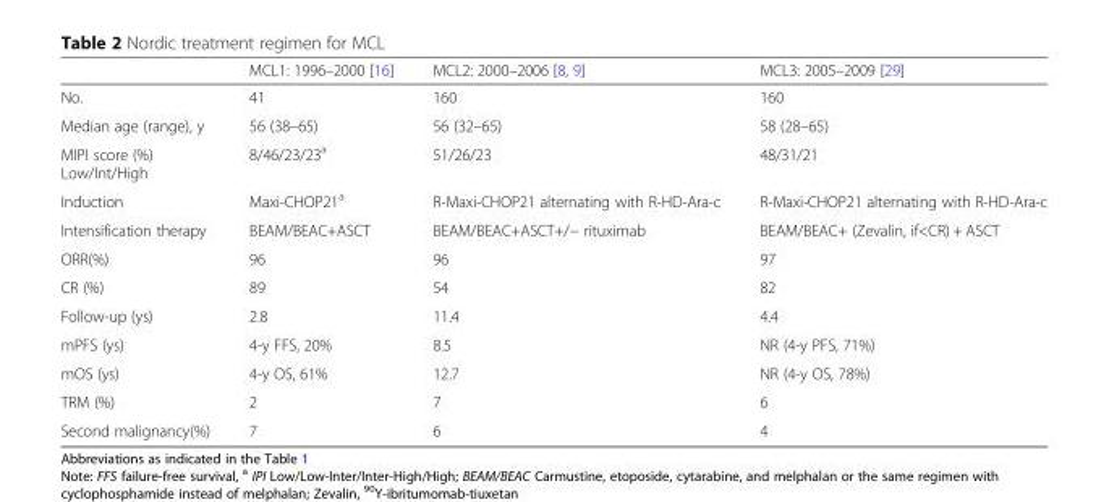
<table><thead><tr><td></td><td>MCL1: 1996–2000 [16]</td><td>MCL2: 2000–2006 [8, 9]</td><td>MCL3: 2005–2009 [29]</td></tr></thead><tbody><tr><td>No.</td><td>41</td><td>160</td><td>160</td></tr><tr><td>Median age (range), y</td><td>56 (38–65)</td><td>56 (32–65)</td><td>58 (28–65)</td></tr><tr><td>MIPI score (%) Low/Int/High</td><td>8/46/23/23<sup>a</sup></td><td>51/26/23</td><td>48/31/21</td></tr><tr><td>Induction</td><td>Maxi-CHOP21<sup>a</sup></td><td>R-Maxi-CHOP21 alternating with R-HD-Ara-c</td><td>R-Maxi-CHOP21 alternating with R-HD-Ara-c</td></tr><tr><td>Intensification therapy</td><td>BEAM/BEAC+ASCT</td><td>BEAM/BEAC+ASCT+/− rituximab</td><td>BEAM/BEAC+ (Zevalin, if&lt;CR) + ASCT</td></tr><tr><td>ORR(%)</td><td>96</td><td>96</td><td>97</td></tr><tr><td>CR (%)</td><td>89</td><td>54</td><td>82</td></tr><tr><td>Follow-up (ys)</td><td>2.8</td><td>11.4</td><td>4.4</td></tr><tr><td>mPFS (ys)</td><td>4-y FFS, 20%</td><td>8.5</td><td>NR (4-y PFS, 71%)</td></tr><tr><td>mOS (ys)</td><td>4-y OS, 61%</td><td>12.7</td><td>NR (4-y OS, 78%)</td></tr><tr><td>TRM (%)</td><td>2</td><td>7</td><td>6</td></tr><tr><td>Second malignancy(%)</td><td>7</td><td>6</td><td>4</td></tr></tbody></table>